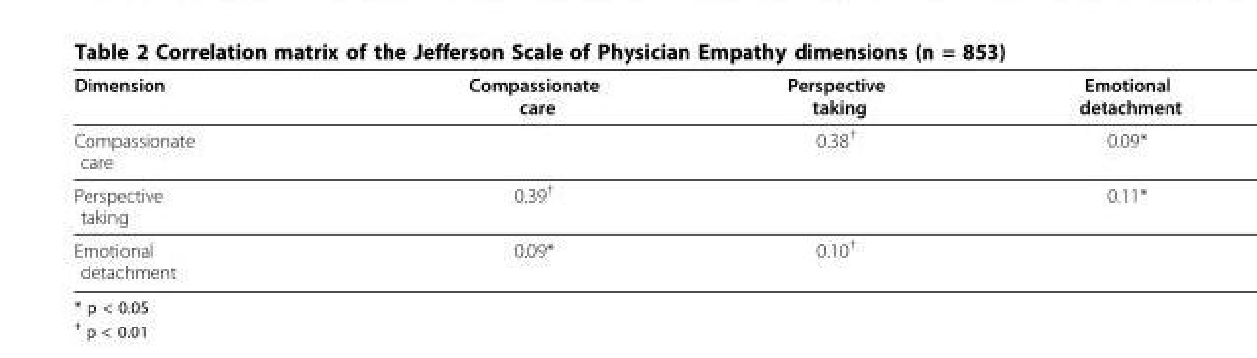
<table><thead><tr><td>Dimension</td><td>Compassionate care</td><td>Perspective taking</td><td>Emotional detachment</td></tr></thead><tbody><tr><td>Compassionate care</td><td></td><td>0.38<sup>†</sup></td><td>0.09*</td></tr><tr><td>Perspective taking</td><td>0.39<sup>†</sup></td><td></td><td>0.11*</td></tr><tr><td>Emotional detachment</td><td>0.09*</td><td>0.10<sup>†</sup></td><td></td></tr></tbody></table>